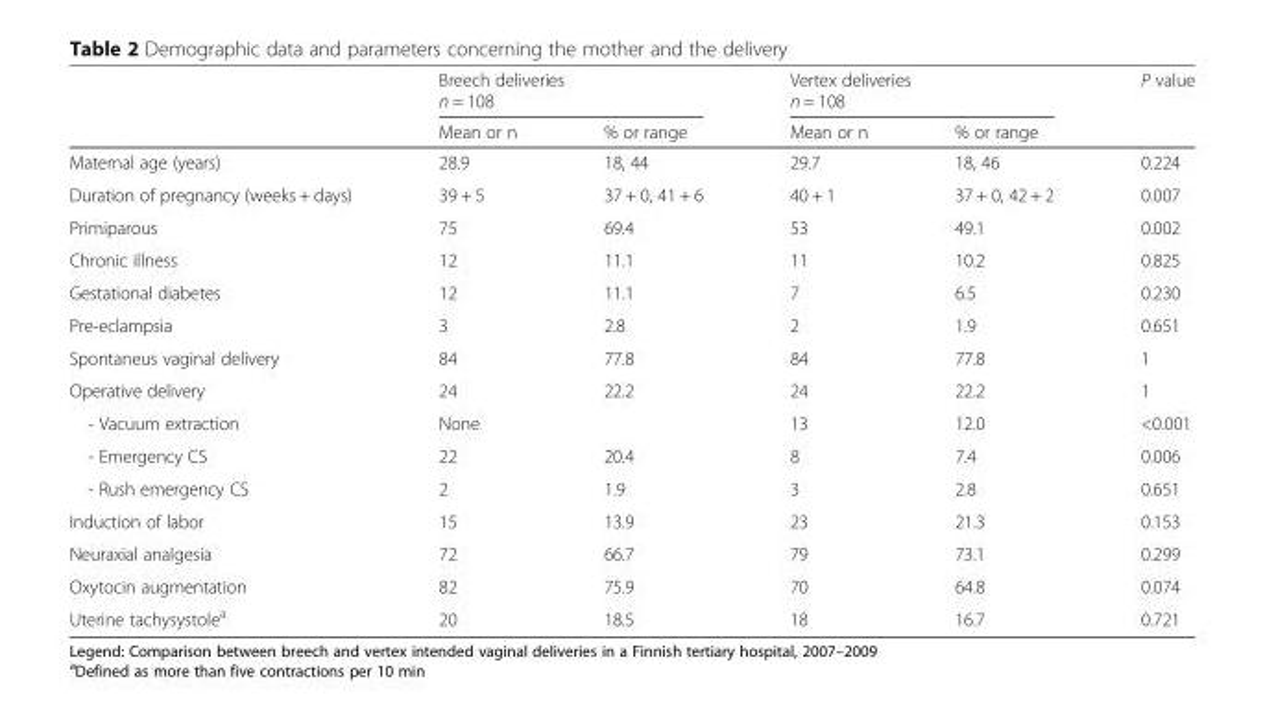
<table><thead><tr><td rowspan="2"></td><td colspan="2">Breech deliveries n = 108</td><td colspan="2">Vertex deliveries n = 108</td><td rowspan="2">P value</td></tr><tr><td>Mean or n</td><td>% or range</td><td>Mean or n</td><td>% or range</td></tr></thead><tbody><tr><td>Maternal age (years)</td><td>28.9</td><td>18, 44</td><td>29.7</td><td>18, 46</td><td>0.224</td></tr><tr><td>Duration of pregnancy (weeks + days)</td><td>39 + 5</td><td>37 + 0, 41 + 6</td><td>40 + 1</td><td>37 + 0, 42 + 2</td><td>0.007</td></tr><tr><td>Primiparous</td><td>75</td><td>69.4</td><td>53</td><td>49.1</td><td>0.002</td></tr><tr><td>Chronic illness</td><td>12</td><td>11.1</td><td>11</td><td>10.2</td><td>0.825</td></tr><tr><td>Gestational diabetes</td><td>12</td><td>11.1</td><td>7</td><td>6.5</td><td>0.230</td></tr><tr><td>Pre-eclampsia</td><td>3</td><td>2.8</td><td>2</td><td>1.9</td><td>0.651</td></tr><tr><td>Spontaneus vaginal delivery</td><td>84</td><td>77.8</td><td>84</td><td>77.8</td><td>1</td></tr><tr><td>Operative delivery</td><td>24</td><td>22.2</td><td>24</td><td>22.2</td><td>1</td></tr><tr><td>- Vacuum extraction</td><td>None</td><td></td><td>13</td><td>12.0</td><td>&lt;0.001</td></tr><tr><td>- Emergency CS</td><td>22</td><td>20.4</td><td>8</td><td>7.4</td><td>0.006</td></tr><tr><td>- Rush emergency CS</td><td>2</td><td>1.9</td><td>3</td><td>2.8</td><td>0.651</td></tr><tr><td>Induction of labor</td><td>15</td><td>13.9</td><td>23</td><td>21.3</td><td>0.153</td></tr><tr><td>Neuraxial analgesia</td><td>72</td><td>66.7</td><td>79</td><td>73.1</td><td>0.299</td></tr><tr><td>Oxytocin augmentation</td><td>82</td><td>75.9</td><td>70</td><td>64.8</td><td>0.074</td></tr><tr><td>Uterine tachysystole<sup>a</sup></td><td>20</td><td>18.5</td><td>18</td><td>16.7</td><td>0.721</td></tr></tbody></table>